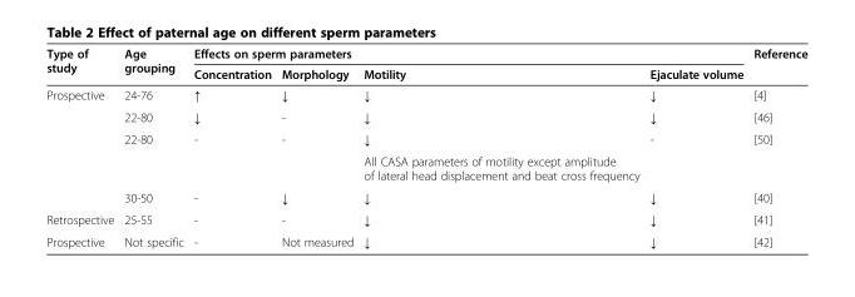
<table><thead><tr><td rowspan="2">Type of study</td><td rowspan="2">Age grouping</td><td colspan="4">Effects on sperm parameters</td><td rowspan="2">Reference</td></tr><tr><td>Concentration</td><td>Morphology</td><td>Motility</td><td>Ejaculate volume</td></tr></thead><tbody><tr><td rowspan="5">Prospective</td><td>24-76</td><td>↑</td><td>↓</td><td>↓</td><td>↓</td><td>[4]</td></tr><tr><td>22-80</td><td>↓</td><td>-</td><td>↓</td><td>↓</td><td>[46]</td></tr><tr><td rowspan="2">22-80</td><td rowspan="2">-</td><td rowspan="2">-</td><td>↓</td><td rowspan="2">-</td><td rowspan="2">[50]</td></tr><tr><td>All CASA parameters of motility except amplitude of lateral head displacement and beat cross frequency</td></tr><tr><td>30-50</td><td>-</td><td>↓</td><td>↓</td><td>↓</td><td>[40]</td></tr><tr><td>Retrospective</td><td>25-55</td><td>-</td><td>-</td><td>↓</td><td>↓</td><td>[41]</td></tr><tr><td>Prospective</td><td>Not specific</td><td>-</td><td>Not measured</td><td>↓</td><td>↓</td><td>[42]</td></tr></tbody></table>